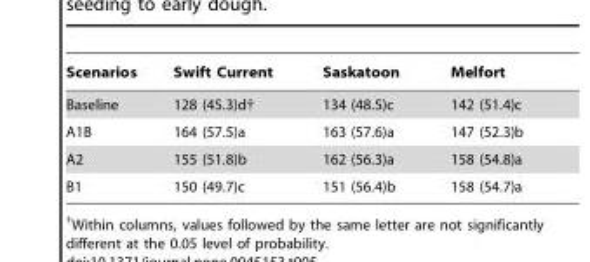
<table><thead><tr><td>Scenarios</td><td>Swift Current</td><td>Saskatoon</td><td>Melfort</td></tr></thead><tbody><tr><td>Baseline</td><td>128 (45.3)d†</td><td>134 (48.5)c</td><td>142 (51.4)c</td></tr><tr><td>A1B</td><td>164 (57.5)a</td><td>163 (57.6)a</td><td>147 (52.3)b</td></tr><tr><td>A2</td><td>155 (51.8)b</td><td>162 (56.3)a</td><td>158 (54.8)a</td></tr><tr><td>B1</td><td>150 (49.7)c</td><td>151 (56.4)b</td><td>158 (54.7)a</td></tr></tbody></table>